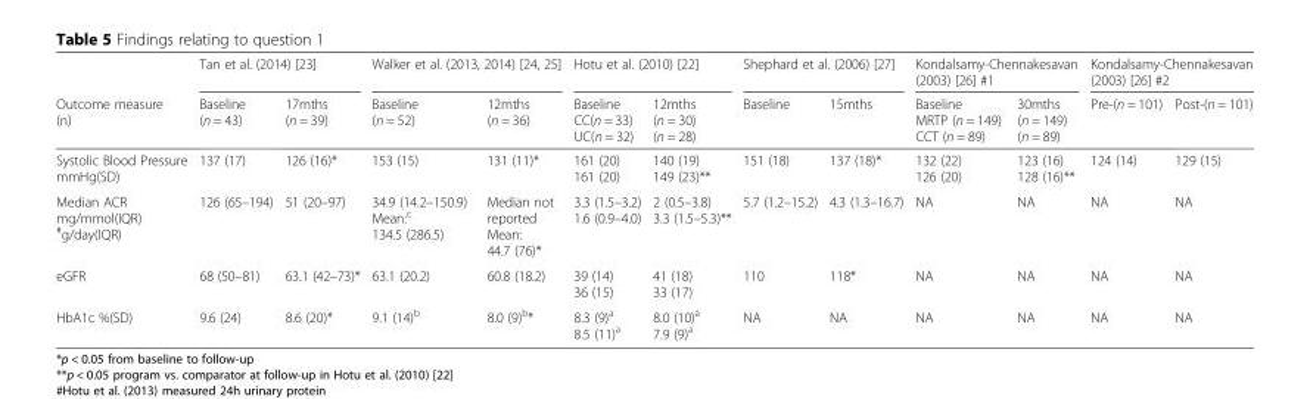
<table><thead><tr><td rowspan="2">Outcome measure (n)</td><td colspan="2">Tan et al. (2014) [23]</td><td colspan="2">Walker et al. (2013, 2014) [24, 25]</td><td colspan="2">Hotu et al. (2010) [22]</td><td colspan="2">Shephard et al. (2006) [27]</td><td colspan="2">Kondalsamy-Chennakesavan (2003) [26] #1</td><td colspan="2">Kondalsamy-Chennakesavan (2003) [26] #2</td></tr><tr><td>Baseline (n = 43)</td><td>17mths (n = 39)</td><td>Baseline (n = 52)</td><td>12mths (n = 36)</td><td>Baseline CC(n = 33) UC(n = 32)</td><td>12mths (n = 30) (n = 28)</td><td>Baseline</td><td>15mths</td><td>Baseline MRTP (n = 149) CCT (n = 89)</td><td>30mths (n = 149) (n = 89)</td><td>Pre-(n = 101)</td><td>Post-(n = 101)</td></tr></thead><tbody><tr><td>Systolic Blood Pressure mmHg(SD)</td><td>137 (17)</td><td>126 (16)*</td><td>153 (15)</td><td>131 (11)*</td><td>161 (20) 161 (20)</td><td>140 (19) 149 (23)**</td><td>151 (18)</td><td>137 (18)*</td><td>132 (22) 126 (20)</td><td>123 (16) 128 (16)**</td><td>124 (14)</td><td>129 (15)</td></tr><tr><td>Median ACR mg/mmol(IQR) <sup>#</sup>g/day(IQR)</td><td>126 (65–194)</td><td>51 (20–97)</td><td>34.9 (14.2–150.9) Mean:<sup>c</sup> 134.5 (286.5)</td><td>Median not reported Mean: 44.7 (76)*</td><td>3.3 (1.5–3.2) 1.6 (0.9–4.0)</td><td>2 (0.5–3.8) 3.3 (1.5–5.3)**</td><td>5.7 (1.2–15.2)</td><td>4.3 (1.3–16.7)</td><td>NA</td><td>NA</td><td>NA</td><td>NA</td></tr><tr><td>eGFR</td><td>68 (50–81)</td><td>63.1 (42–73)*</td><td>63.1 (20.2)</td><td>60.8 (18.2)</td><td>39 (14) 36 (15)</td><td>41 (18) 33 (17)</td><td>110</td><td>118*</td><td>NA</td><td>NA</td><td>NA</td><td>NA</td></tr><tr><td>HbA1c %(SD)</td><td>9.6 (24)</td><td>8.6 (20)*</td><td>9.1 (14)<sup>b</sup></td><td>8.0 (9)<sup>b</sup>*</td><td>8.3 (9)<sup>a</sup> 8.5 (11)<sup>a</sup></td><td>8.0 (10)<sup>a</sup> 7.9 (9)<sup>a</sup></td><td>NA</td><td>NA</td><td>NA</td><td>NA</td><td>NA</td><td>NA</td></tr></tbody></table>